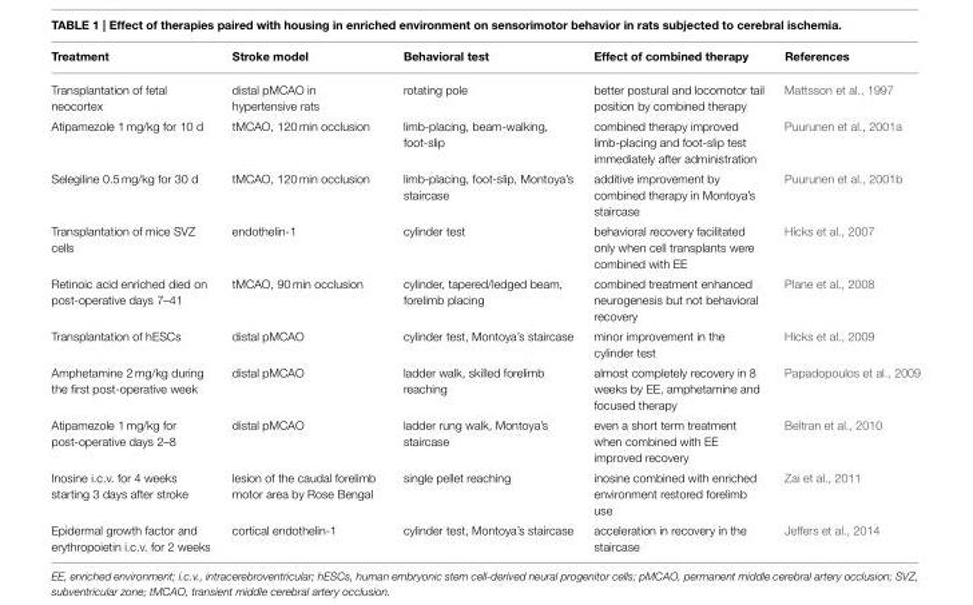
<table><thead><tr><td>Treatment</td><td>Stroke model</td><td>Behavioral test</td><td>Effect of combined therapy</td><td>References</td></tr></thead><tbody><tr><td>Transplantation of fetal neocortex</td><td>distal pMCAO in hypertensive rats</td><td>rotating pole</td><td>better postural and locomotor tail position by combined therapy</td><td>Mattsson et al., 1997</td></tr><tr><td>Atipamezole 1 mg/kg for 10 d</td><td>tMCAO, 120 min occlusion</td><td>limb-placing, beam-walking, foot-slip</td><td>combined therapy improved limb-placing and foot-slip test immediately after administration</td><td>Puurunen et al., 2001a</td></tr><tr><td>Selegiline 0.5 mg/kg for 30 d</td><td>tMCAO, 120 min occlusion</td><td>limb-placing, foot-slip, Montoya’s staircase</td><td>additive improvement by combined therapy in Montoya’s staircase</td><td>Puurunen et al., 2001b</td></tr><tr><td>Transplantation of mice SVZ cells</td><td>endothelin-1</td><td>cylinder test</td><td>behavioral recovery facilitated only when cell transplants were combined with EE</td><td>Hicks et al., 2007</td></tr><tr><td>Retinoic acid enriched died on post-operative days 7–41</td><td>tMCAO, 90 min occlusion</td><td>cylinder, tapered/ledged beam, forelimb placing</td><td>combined treatment enhanced neurogenesis but not behavioral recovery</td><td>Plane et al., 2008</td></tr><tr><td>Transplantation of hESCs</td><td>distal pMCAO</td><td>cylinder test, Montoya’s staircase</td><td>minor improvement in the cylinder test</td><td>Hicks et al., 2009</td></tr><tr><td>Amphetamine 2 mg/kg during the first post-operative week</td><td>distal pMCAO</td><td>ladder walk, skilled forelimb reaching</td><td>almost completely recovery in 8 weeks by EE, amphetamine and focused therapy</td><td>Papadopoulos et al., 2009</td></tr><tr><td>Atipamezole 1 mg/kg for post-operative days 2–8</td><td>distal pMCAO</td><td>ladder rung walk, Montoya’s staircase</td><td>even a short term treatment when combined with EE improved recovery</td><td>Beltran et al., 2010</td></tr><tr><td>Inosine i.c.v. for 4 weeks starting 3 days after stroke</td><td>lesion of the caudal forelimb motor area by Rose Bengal</td><td>single pellet reaching</td><td>inosine combined with enriched environment restored forelimb use</td><td>Zai et al., 2011</td></tr><tr><td>Epidermal growth factor and erythropoietin i.c.v. for 2 weeks</td><td>cortical endothelin-1</td><td>cylinder test, Montoya’s staircase</td><td>acceleration in recovery in the staircase</td><td>Jeffers et al., 2014</td></tr></tbody></table>